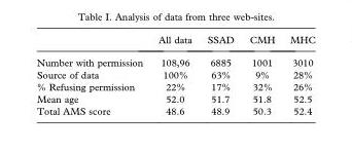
<table><thead><tr><td></td><td>All data</td><td>SSAD</td><td>CMH</td><td>MHC</td></tr></thead><tbody><tr><td>Number with permission</td><td>108,96</td><td>6885</td><td>1001</td><td>3010</td></tr><tr><td>Source of data</td><td>100%</td><td>63%</td><td>9%</td><td>28%</td></tr><tr><td>% Refusing permission</td><td>22%</td><td>17%</td><td>32%</td><td>26%</td></tr><tr><td>Mean age</td><td>52.0</td><td>51.7</td><td>51.8</td><td>52.5</td></tr><tr><td>Total AMS score</td><td>48.6</td><td>48.9</td><td>50.3</td><td>52.4</td></tr></tbody></table>